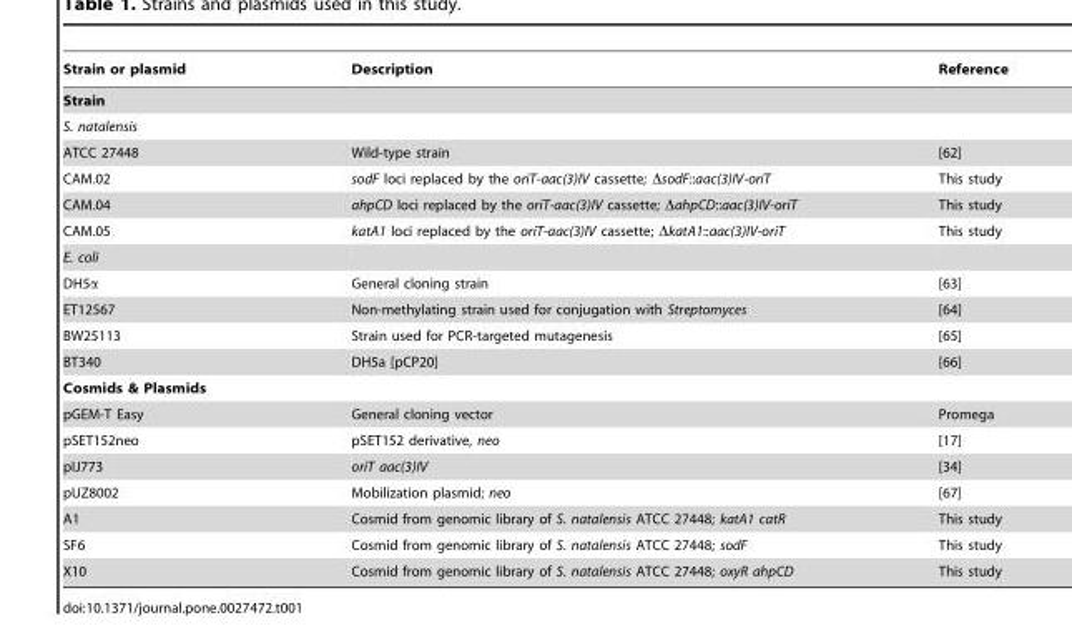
<table><thead><tr><td>Strain or plasmid</td><td>Description</td><td>Reference</td></tr></thead><tbody><tr><td colspan="3">Strain</td></tr><tr><td colspan="3">S. natalensis</td></tr><tr><td>ATCC 27448</td><td>Wild-type strain</td><td>[62]</td></tr><tr><td>CAM.02</td><td>sodF loci replaced by the oriT-aac(3)IV cassette; ΔsodF::aac(3)IV-oriT</td><td>This study</td></tr><tr><td>CAM.04</td><td>ahpCD loci replaced by the oriT-aac(3)IV cassette; ΔahpCD::aac(3)IV-oriT</td><td>This study</td></tr><tr><td>CAM.05</td><td>katA1 loci replaced by the oriT-aac(3)IV cassette; ΔkatA1::aac(3)IV-oriT</td><td>This study</td></tr><tr><td colspan="3">E. coli</td></tr><tr><td>DH5α</td><td>General cloning strain</td><td>[63]</td></tr><tr><td>ET12567</td><td>Non-methylating strain used for conjugation with Streptomyces</td><td>[64]</td></tr><tr><td>BW25113</td><td>Strain used for PCR-targeted mutagenesis</td><td>[65]</td></tr><tr><td>BT340</td><td>DH5a [pCP20]</td><td>[66]</td></tr><tr><td colspan="3">Cosmids &amp; Plasmids</td></tr><tr><td>pGEM-T Easy</td><td>General cloning vector</td><td>Promega</td></tr><tr><td>pSET152neo</td><td>pSET152 derivative, neo</td><td>[17]</td></tr><tr><td>pIJ773</td><td>oriT aac(3)IV</td><td>[34]</td></tr><tr><td>pUZ8002</td><td>Mobilization plasmid; neo</td><td>[67]</td></tr><tr><td>A1</td><td>Cosmid from genomic library of S. natalensis ATCC 27448; katA1 catR</td><td>This study</td></tr><tr><td>SF6</td><td>Cosmid from genomic library of S. natalensis ATCC 27448; sodF</td><td>This study</td></tr><tr><td>X10</td><td>Cosmid from genomic library of S. natalensis ATCC 27448; oxyR ahpCD</td><td>This study</td></tr></tbody></table>